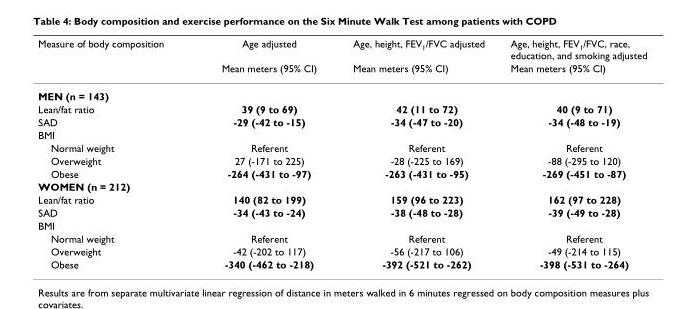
<table><thead><tr><td rowspan="2">Measure of body composition</td><td rowspan="2">Age adjusted Mean meters (95% CI)</td><td rowspan="2">Age, height, FEV<sub>1</sub>/FVC adjusted Mean meters (95% CI)</td><td rowspan="2">Age, height, FEV<sub>1</sub>/FVC, race, education, and smoking adjusted Mean meters (95% CI)</td></tr><tr></tr></thead><tbody><tr><td colspan="4">MEN (n = 143)</td></tr><tr><td>Lean/fat ratio</td><td>39 (9 to 69)</td><td>42 (11 to 72)</td><td>40 (9 to 71)</td></tr><tr><td>SAD</td><td>-29 (-42 to -15)</td><td>-34 (-47 to -20)</td><td>-34 (-48 to -19)</td></tr><tr><td colspan="4">BMI</td></tr><tr><td>Normal weight</td><td>Referent</td><td>Referent</td><td>Referent</td></tr><tr><td>Overweight</td><td>27 (-171 to 225)</td><td>-28 (-225 to 169)</td><td>-88 (-295 to 120)</td></tr><tr><td>Obese</td><td>-264 (-431 to -97)</td><td>-263 (-431 to -95)</td><td>-269 (-451 to -87)</td></tr><tr><td colspan="4">WOMEN (n = 212)</td></tr><tr><td>Lean/fat ratio</td><td>140 (82 to 199)</td><td>159 (96 to 223)</td><td>162 (97 to 228)</td></tr><tr><td>SAD</td><td>-34 (-43 to -24)</td><td>-38 (-48 to -28)</td><td>-39 (-49 to -28)</td></tr><tr><td colspan="4">BMI</td></tr><tr><td>Normal weight</td><td>Referent</td><td>Referent</td><td>Referent</td></tr><tr><td>Overweight</td><td>-42 (-202 to 117)</td><td>-56 (-217 to 106)</td><td>-49 (-214 to 115)</td></tr><tr><td>Obese</td><td>-340 (-462 to -218)</td><td>-392 (-521 to -262)</td><td>-398 (-531 to -264)</td></tr></tbody></table>